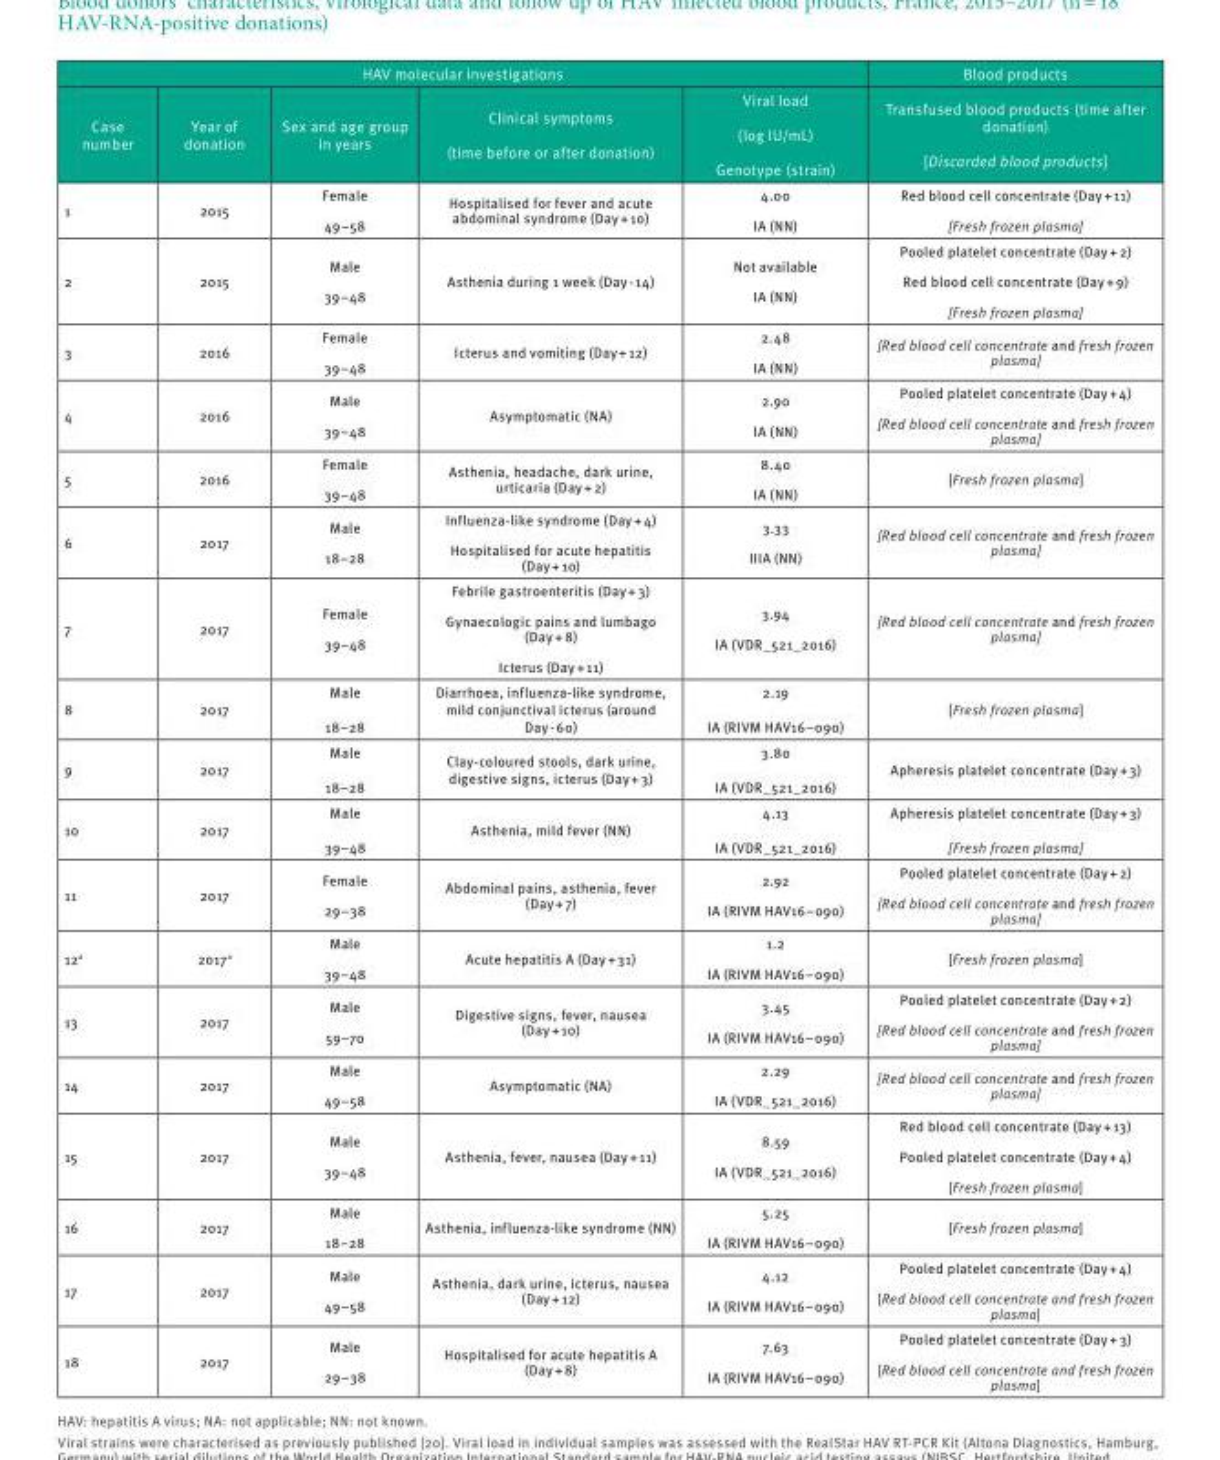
<table><thead><tr><td colspan="5">HAV molecular investigations</td><td rowspan="2">Blood products Transfused blood products (time after donation) [Discarded blood products]</td></tr><tr><td>Case number</td><td>Year of donation</td><td>Sex and age group in years</td><td>Clinical symptoms (time before or after donation)</td><td>Viral load (log IU/mL) Genotype (strain)</td></tr></thead><tbody><tr><td>1</td><td>2015</td><td>Female 49–58</td><td>Hospitalised for fever and acute abdominal syndrome (Day + 10)</td><td>4.00 IA (NN)</td><td>Red blood cell concentrate (Day + 11) [Fresh frozen plasma]</td></tr><tr><td>2</td><td>2015</td><td>Male 39–48</td><td>Asthenia during 1 week (Day - 14)</td><td>Not available IA (NN)</td><td>Pooled platelet concentrate (Day + 2) Red blood cell concentrate (Day + 9) [Fresh frozen plasma]</td></tr><tr><td>3</td><td>2016</td><td>Female 39–48</td><td>Icterus and vomiting (Day + 12)</td><td>2.48 IA (NN)</td><td>[Red blood cell concentrate and fresh frozen plasma]</td></tr><tr><td>4</td><td>2016</td><td>Male 39–48</td><td>Asymptomatic (NA)</td><td>2.90 IA (NN)</td><td>Pooled platelet concentrate (Day + 4) [Red blood cell concentrate and fresh frozen plasma]</td></tr><tr><td>5</td><td>2016</td><td>Female 39–48</td><td>Asthenia, headache, dark urine, urticaria (Day + 2)</td><td>8.40 IA (NN)</td><td>[Fresh frozen plasma]</td></tr><tr><td>6</td><td>2017</td><td>Male 18–28</td><td>Influenza-like syndrome (Day + 4) Hospitalised for acute hepatitis (Day + 10)</td><td>3.33 IIIA (NN)</td><td>[Red blood cell concentrate and fresh frozen plasma]</td></tr><tr><td>7</td><td>2017</td><td>Female 39–48</td><td>Febrile gastroenteritis (Day + 3) Gynaecologic pains and lumbago (Day + 8) Icterus (Day + 11)</td><td>3.94 IA (VDR_521_2016)</td><td>[Red blood cell concentrate and fresh frozen plasma]</td></tr><tr><td>8</td><td>2017</td><td>Male 18–28</td><td>Diarrhoea, influenza-like syndrome, mild conjunctival icterus (around Day - 60)</td><td>2.19 IA (RIVM HAV16–090)</td><td>[Fresh frozen plasma]</td></tr><tr><td>9</td><td>2017</td><td>Male 18–28</td><td>Clay-coloured stools, dark urine, digestive signs, icterus (Day + 3)</td><td>3.80 IA (VDR_521_2016)</td><td>Apheresis platelet concentrate (Day + 3)</td></tr><tr><td>10</td><td>2017</td><td>Male 39–48</td><td>Asthenia, mild fever (NN)</td><td>4.13 IA (VDR_521_2016)</td><td>Apheresis platelet concentrate (Day + 3) [Fresh frozen plasma]</td></tr><tr><td>11</td><td>2017</td><td>Female 29–38</td><td>Abdominal pains, asthenia, fever (Day + 7)</td><td>2.92 IA (RIVM HAV16–090)</td><td>Pooled platelet concentrate (Day + 2) [Red blood cell concentrate and fresh frozen plasma]</td></tr><tr><td>12<sup>a</sup></td><td>2017<sup>a</sup></td><td>Male 39–48</td><td>Acute hepatitis A (Day + 31)</td><td>1.2 IA (RIVM HAV16–090)</td><td>[Fresh frozen plasma]</td></tr><tr><td>13</td><td>2017</td><td>Male 59–70</td><td>Digestive signs, fever, nausea (Day + 10)</td><td>3.45 IA (RIVM HAV16–090)</td><td>Pooled platelet concentrate (Day + 2) [Red blood cell concentrate and fresh frozen plasma]</td></tr><tr><td>14</td><td>2017</td><td>Male 49–58</td><td>Asymptomatic (NA)</td><td>2.29 IA (VDR_521_2016)</td><td>[Red blood cell concentrate and fresh frozen plasma]</td></tr><tr><td>15</td><td>2017</td><td>Male 39–48</td><td>Asthenia, fever, nausea (Day + 11)</td><td>8.59 IA (VDR_521_2016)</td><td>Red blood cell concentrate (Day + 13) Pooled platelet concentrate (Day + 4) [Fresh frozen plasma]</td></tr><tr><td>16</td><td>2017</td><td>Male 18–28</td><td>Asthenia, influenza-like syndrome (NN)</td><td>5.25 IA (RIVM HAV16–090)</td><td>[Fresh frozen plasma]</td></tr><tr><td>17</td><td>2017</td><td>Male 49–58</td><td>Asthenia, dark urine, icterus, nausea (Day + 12)</td><td>4.12 IA (RIVM HAV16–090)</td><td>Pooled platelet concentrate (Day + 4) [Red blood cell concentrate and fresh frozen plasma]</td></tr><tr><td>18</td><td>2017</td><td>Male 29–38</td><td>Hospitalised for acute hepatitis A (Day + 8)</td><td>7.63 IA (RIVM HAV16–090)</td><td>Pooled platelet concentrate (Day + 3) [Red blood cell concentrate and fresh frozen plasma]</td></tr></tbody></table>